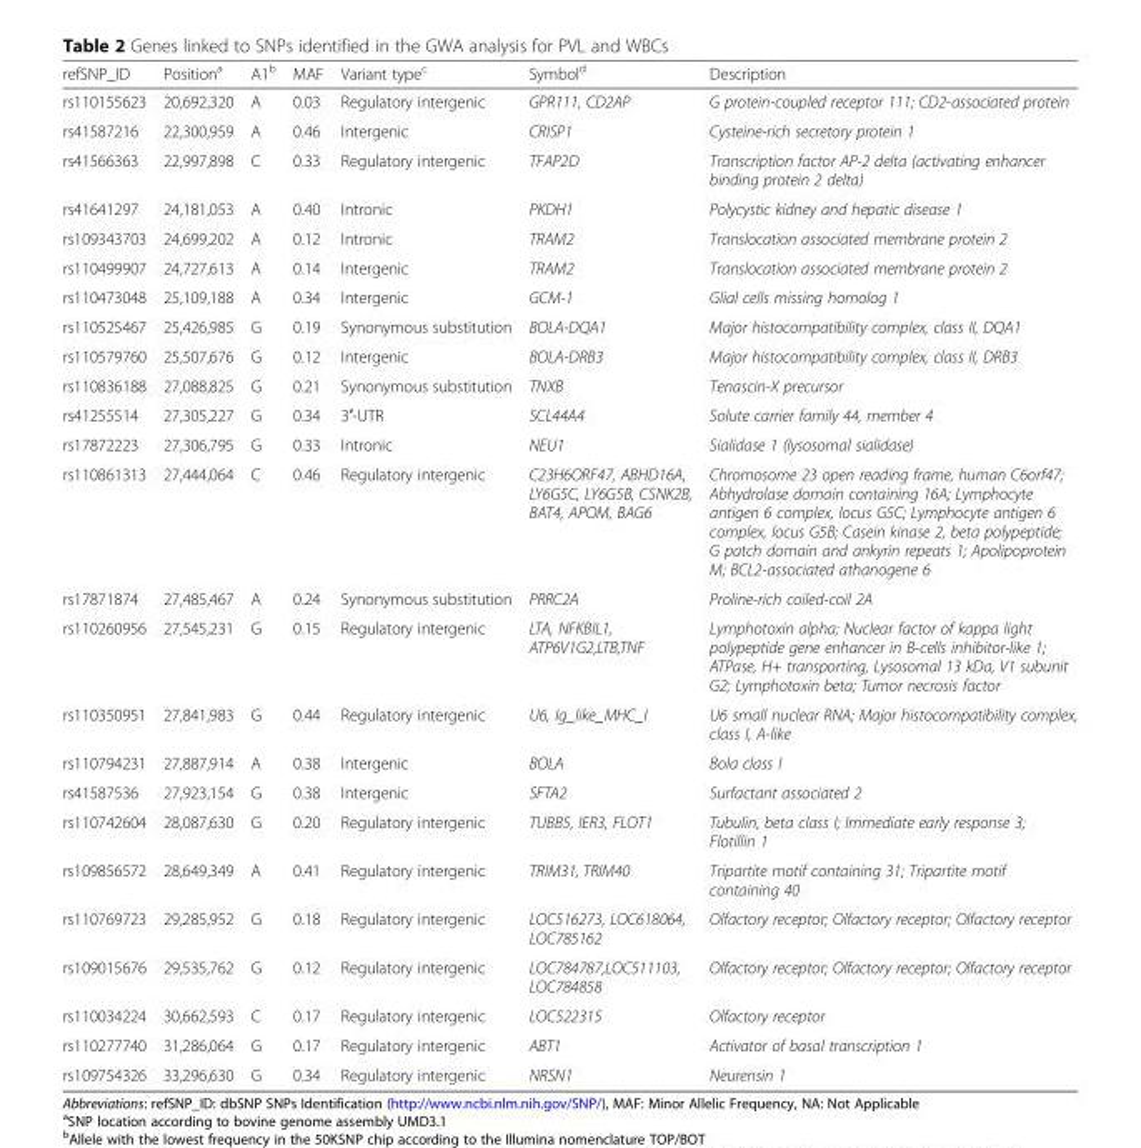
<table><thead><tr><td>refSNP_ID</td><td>Position<sup>a</sup></td><td>A1<sup>b</sup></td><td>MAF</td><td>Variant type<sup>c</sup></td><td>Symbol<sup>d</sup></td><td>Description</td></tr></thead><tbody><tr><td>rs110155623</td><td>20,692,320</td><td>A</td><td>0.03</td><td>Regulatory intergenic</td><td>GPR111, CD2AP</td><td>G protein-coupled receptor 111; CD2-associated protein</td></tr><tr><td>rs41587216</td><td>22,300,959</td><td>A</td><td>0.46</td><td>Intergenic</td><td>CRISP1</td><td>Cysteine-rich secretory protein 1</td></tr><tr><td>rs41566363</td><td>22,997,898</td><td>C</td><td>0.33</td><td>Regulatory intergenic</td><td>TFAP2D</td><td>Transcription factor AP-2 delta (activating enhancer binding protein 2 delta)</td></tr><tr><td>rs41641297</td><td>24,181,053</td><td>A</td><td>0.40</td><td>Intronic</td><td>PKDH1</td><td>Polycystic kidney and hepatic disease 1</td></tr><tr><td>rs109343703</td><td>24,699,202</td><td>A</td><td>0.12</td><td>Intronic</td><td>TRAM2</td><td>Translocation associated membrane protein 2</td></tr><tr><td>rs110499907</td><td>24,727,613</td><td>A</td><td>0.14</td><td>Intergenic</td><td>TRAM2</td><td>Translocation associated membrane protein 2</td></tr><tr><td>rs110473048</td><td>25,109,188</td><td>A</td><td>0.34</td><td>Intergenic</td><td>GCM-1</td><td>Glial cells missing homolog 1</td></tr><tr><td>rs110525467</td><td>25,426,985</td><td>G</td><td>0.19</td><td>Synonymous substitution</td><td>BOLA-DQA1</td><td>Major histocompatibility complex, class II, DQA1</td></tr><tr><td>rs110579760</td><td>25,507,676</td><td>G</td><td>0.12</td><td>Intergenic</td><td>BOLA-DRB3</td><td>Major histocompatibility complex, class II, DRB3</td></tr><tr><td>rs110836188</td><td>27,088,825</td><td>G</td><td>0.21</td><td>Synonymous substitution</td><td>TNXB</td><td>Tenascin-X precursor</td></tr><tr><td>rs41255514</td><td>27,305,227</td><td>G</td><td>0.34</td><td>3′-UTR</td><td>SCL44A4</td><td>Solute carrier family 44, member 4</td></tr><tr><td>rs17872223</td><td>27,306,795</td><td>G</td><td>0.33</td><td>Intronic</td><td>NEU1</td><td>Sialidase 1 (lysosomal sialidase)</td></tr><tr><td>rs110861313</td><td>27,444,064</td><td>C</td><td>0.46</td><td>Regulatory intergenic</td><td>C23H6ORF47, ABHD16A, LY6G5C, LY6G5B, CSNK2B, BAT4, APOM, BAG6</td><td>Chromosome 23 open reading frame, human C6orf47; Abhydrolase domain containing 16A; Lymphocyte antigen 6 complex, locus G5C; Lymphocyte antigen 6 complex, locus G5B; Casein kinase 2, beta polypeptide; G patch domain and ankyrin repeats 1; Apolipoprotein M; BCL2-associated athanogene 6</td></tr><tr><td>rs17871874</td><td>27,485,467</td><td>A</td><td>0.24</td><td>Synonymous substitution</td><td>PRRC2A</td><td>Proline-rich coiled-coil 2A</td></tr><tr><td>rs110260956</td><td>27,545,231</td><td>G</td><td>0.15</td><td>Regulatory intergenic</td><td>LTA, NFKBIL1, ATP6V1G2,LTB,TNF</td><td>Lymphotoxin alpha; Nuclear factor of kappa light polypeptide gene enhancer in B-cells inhibitor-like 1; ATPase, H+ transporting, Lysosomal 13 kDa, V1 subunit G2; Lymphotoxin beta; Tumor necrosis factor</td></tr><tr><td>rs110350951</td><td>27,841,983</td><td>G</td><td>0.44</td><td>Regulatory intergenic</td><td>U6, Ig_like_MHC_I</td><td>U6 small nuclear RNA; Major histocompatibility complex, class I, A-like</td></tr><tr><td>rs110794231</td><td>27,887,914</td><td>A</td><td>0.38</td><td>Intergenic</td><td>BOLA</td><td>Bola class I</td></tr><tr><td>rs41587536</td><td>27,923,154</td><td>G</td><td>0.38</td><td>Intergenic</td><td>SFTA2</td><td>Surfactant associated 2</td></tr><tr><td>rs110742604</td><td>28,087,630</td><td>G</td><td>0.20</td><td>Regulatory intergenic</td><td>TUBB5, IER3, FLOT1</td><td>Tubulin, beta class I; Immediate early response 3; Flotillin 1</td></tr><tr><td>rs109856572</td><td>28,649,349</td><td>A</td><td>0.41</td><td>Regulatory intergenic</td><td>TRIM31, TRIM40</td><td>Tripartite motif containing 31; Tripartite motif containing 40</td></tr><tr><td>rs110769723</td><td>29,285,952</td><td>G</td><td>0.18</td><td>Regulatory intergenic</td><td>LOC516273, LOC618064, LOC785162</td><td>Olfactory receptor; Olfactory receptor; Olfactory receptor</td></tr><tr><td>rs109015676</td><td>29,535,762</td><td>G</td><td>0.12</td><td>Regulatory intergenic</td><td>LOC784787,LOC511103, LOC784858</td><td>Olfactory receptor; Olfactory receptor; Olfactory receptor</td></tr><tr><td>rs110034224</td><td>30,662,593</td><td>C</td><td>0.17</td><td>Regulatory intergenic</td><td>LOC522315</td><td>Olfactory receptor</td></tr><tr><td>rs110277740</td><td>31,286,064</td><td>G</td><td>0.17</td><td>Regulatory intergenic</td><td>ABT1</td><td>Activator of basal transcription 1</td></tr><tr><td>rs109754326</td><td>33,296,630</td><td>G</td><td>0.34</td><td>Regulatory intergenic</td><td>NRSN1</td><td>Neurensin 1</td></tr></tbody></table>